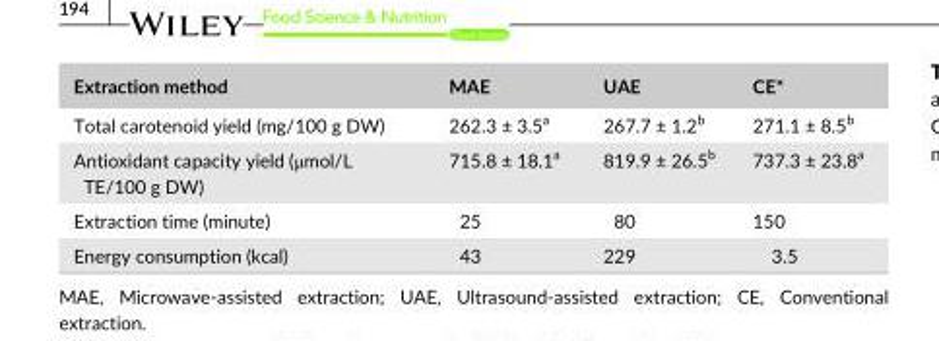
<table><thead><tr><td>Extraction method</td><td>MAE</td><td>UAE</td><td>CE*</td></tr></thead><tbody><tr><td>Total carotenoid yield (mg/100 g DW)</td><td>262.3 ± 3.5<sup>a</sup></td><td>267.7 ± 1.2<sup>b</sup></td><td>271.1 ± 8.5<sup>b</sup></td></tr><tr><td>Antioxidant capacity yield (μmol/L TE/100 g DW)</td><td>715.8 ± 18.1<sup>a</sup></td><td>819.9 ± 26.5<sup>b</sup></td><td>737.3 ± 23.8<sup>a</sup></td></tr><tr><td>Extraction time (minute)</td><td>25</td><td>80</td><td>150</td></tr><tr><td>Energy consumption (kcal)</td><td>43</td><td>229</td><td>3.5</td></tr></tbody></table>